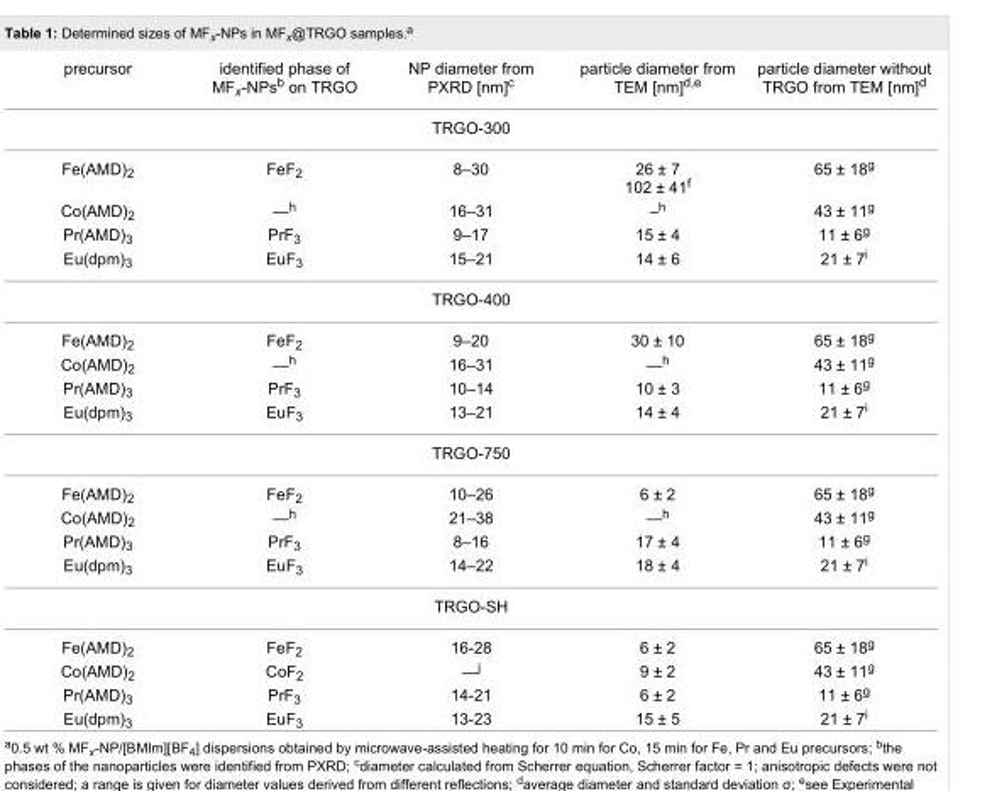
<table><tbody><tr><td>precursor</td><td>identified phase of MF<sub>x</sub>-NPs<sup>b</sup> on TRGO</td><td>NP diameter from PXRD [nm]<sup>c</sup></td><td>particle diameter from TEM [nm]<sup>d,e</sup></td><td>particle diameter without TRGO from TEM [nm]<sup>d</sup></td></tr><tr><td colspan="5">TRGO-300</td></tr><tr><td>Fe(AMD)<sub>2</sub></td><td>FeF<sub>2</sub></td><td>8–30</td><td>26 ± 7 102 ± 41<sup>f</sup></td><td>65 ± 18<sup>g</sup></td></tr><tr><td>Co(AMD)<sub>2</sub></td><td>—<sup>h</sup></td><td>16–31</td><td>–<sup>h</sup></td><td>43 ± 11<sup>g</sup></td></tr><tr><td>Pr(AMD)<sub>3</sub></td><td>PrF<sub>3</sub></td><td>9–17</td><td>15 ± 4</td><td>11 ± 6<sup>g</sup></td></tr><tr><td>Eu(dpm)<sub>3</sub></td><td>EuF<sub>3</sub></td><td>15–21</td><td>14 ± 6</td><td>21 ± 7<sup>i</sup></td></tr><tr><td colspan="5">TRGO-400</td></tr><tr><td>Fe(AMD)<sub>2</sub></td><td>FeF<sub>2</sub></td><td>9–20</td><td>30 ± 10</td><td>65 ± 18<sup>g</sup></td></tr><tr><td>Co(AMD)<sub>2</sub></td><td>—<sup>h</sup></td><td>16–31</td><td>—<sup>h</sup></td><td>43 ± 11<sup>g</sup></td></tr><tr><td>Pr(AMD)<sub>3</sub></td><td>PrF<sub>3</sub></td><td>10–14</td><td>10 ± 3</td><td>11 ± 6<sup>g</sup></td></tr><tr><td>Eu(dpm)<sub>3</sub></td><td>EuF<sub>3</sub></td><td>13–21</td><td>14 ± 4</td><td>21 ± 7<sup>i</sup></td></tr><tr><td colspan="5">TRGO-750</td></tr><tr><td>Fe(AMD)<sub>2</sub></td><td>FeF<sub>2</sub></td><td>10–26</td><td>6 ± 2</td><td>65 ± 18<sup>g</sup></td></tr><tr><td>Co(AMD)<sub>2</sub></td><td>—<sup>h</sup></td><td>21–38</td><td>—<sup>h</sup></td><td>43 ± 11<sup>g</sup></td></tr><tr><td>Pr(AMD)<sub>3</sub></td><td>PrF<sub>3</sub></td><td>8–16</td><td>17 ± 4</td><td>11 ± 6<sup>g</sup></td></tr><tr><td>Eu(dpm)<sub>3</sub></td><td>EuF<sub>3</sub></td><td>14–22</td><td>18 ± 4</td><td>21 ± 7<sup>i</sup></td></tr><tr><td colspan="5">TRGO-SH</td></tr><tr><td>Fe(AMD)<sub>2</sub></td><td>FeF<sub>2</sub></td><td>16-28</td><td>6 ± 2</td><td>65 ± 18<sup>g</sup></td></tr><tr><td>Co(AMD)<sub>2</sub></td><td>CoF<sub>2</sub></td><td>—<sup>j</sup></td><td>9 ± 2</td><td>43 ± 11<sup>g</sup></td></tr><tr><td>Pr(AMD)<sub>3</sub></td><td>PrF<sub>3</sub></td><td>14-21</td><td>6 ± 2</td><td>11 ± 6<sup>g</sup></td></tr><tr><td>Eu(dpm)<sub>3</sub></td><td>EuF<sub>3</sub></td><td>13-23</td><td>15 ± 5</td><td>21 ± 7<sup>i</sup></td></tr></tbody></table>